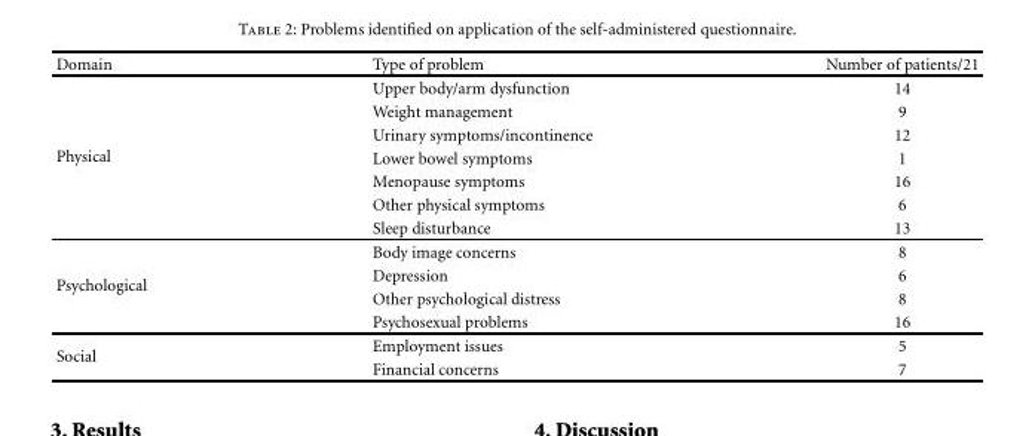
<table><thead><tr><td>Domain</td><td>Type of problem</td><td>Number of patients/21</td></tr></thead><tbody><tr><td rowspan="7">Physical</td><td>Upper body/arm dysfunction</td><td>14</td></tr><tr><td>Weight management</td><td>9</td></tr><tr><td>Urinary symptoms/incontinence</td><td>12</td></tr><tr><td>Lower bowel symptoms</td><td>1</td></tr><tr><td>Menopause symptoms</td><td>16</td></tr><tr><td>Other physical symptoms</td><td>6</td></tr><tr><td>Sleep disturbance</td><td>13</td></tr><tr><td rowspan="4">Psychological</td><td>Body image concerns</td><td>8</td></tr><tr><td>Depression</td><td>6</td></tr><tr><td>Other psychological distress</td><td>8</td></tr><tr><td>Psychosexual problems</td><td>16</td></tr><tr><td rowspan="2">Social</td><td>Employment issues</td><td>5</td></tr><tr><td>Financial concerns</td><td>7</td></tr></tbody></table>